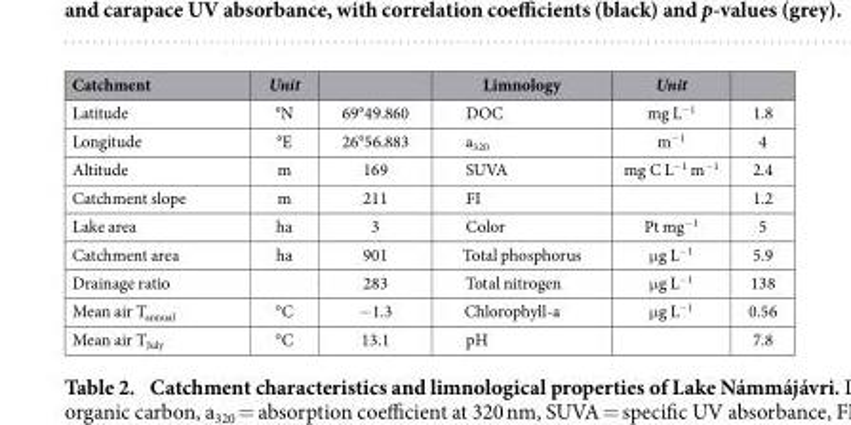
<table><thead><tr><td>Catchment</td><td>Unit</td><td></td><td>Limnology</td><td>Unit</td><td></td></tr></thead><tbody><tr><td>Latitude</td><td>°N</td><td>69°49.860</td><td>DOC</td><td>mg L<sup>−1</sup></td><td>1.8</td></tr><tr><td>Longitude</td><td>°E</td><td>26°56.883</td><td>a<sub>320</sub></td><td>m<sup>−1</sup></td><td>4</td></tr><tr><td>Altitude</td><td>m</td><td>169</td><td>SUVA</td><td>mg C L<sup>−1</sup> m<sup>−1</sup></td><td>2.4</td></tr><tr><td>Catchment slope</td><td>m</td><td>211</td><td>FI</td><td></td><td>1.2</td></tr><tr><td>Lake area</td><td>ha</td><td>3</td><td>Color</td><td>Pt mg<sup>−1</sup></td><td>5</td></tr><tr><td>Catchment area</td><td>ha</td><td>901</td><td>Total phosphorus</td><td>μ g L<sup>−1</sup></td><td>5.9</td></tr><tr><td>Drainage ratio</td><td></td><td>283</td><td>Total nitrogen</td><td>μ g L<sup>−1</sup></td><td>138</td></tr><tr><td>Mean air T<sub>annual</sub></td><td>°C</td><td>− 1.3</td><td>Chlorophyll-a</td><td>μ g L<sup>−1</sup></td><td>0.56</td></tr><tr><td>Mean air T<sub>July</sub></td><td>°C</td><td>13.1</td><td>pH</td><td></td><td>7.8</td></tr></tbody></table>